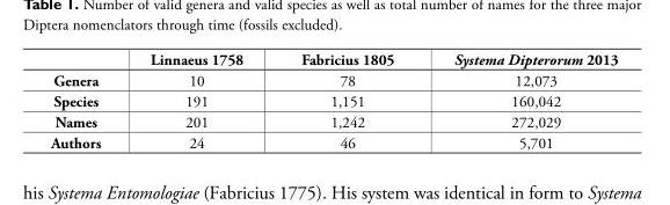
<table><thead><tr><td></td><td>Linnaeus 1758</td><td>Fabricius 1805</td><td>Systema Dipterorum 2013</td></tr></thead><tbody><tr><td>Genera</td><td>10</td><td>78</td><td>12,073</td></tr><tr><td>Species</td><td>191</td><td>1,151</td><td>160,042</td></tr><tr><td>Names</td><td>201</td><td>1,242</td><td>272,029</td></tr><tr><td>Authors</td><td>24</td><td>46</td><td>5,701</td></tr></tbody></table>